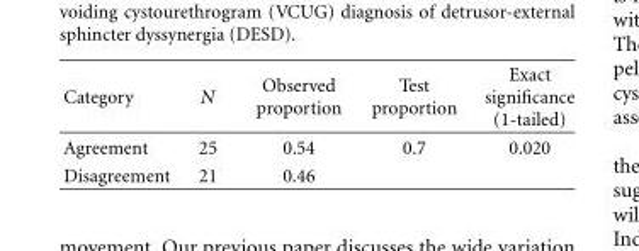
<table><thead><tr><td>Category</td><td>N</td><td>Observed proportion</td><td>Test proportion</td><td>Exact significance (1-tailed)</td></tr></thead><tbody><tr><td>Agreement</td><td>25</td><td>0.54</td><td>0.7</td><td>0.020</td></tr><tr><td>Disagreement</td><td>21</td><td>0.46</td><td></td><td></td></tr></tbody></table>